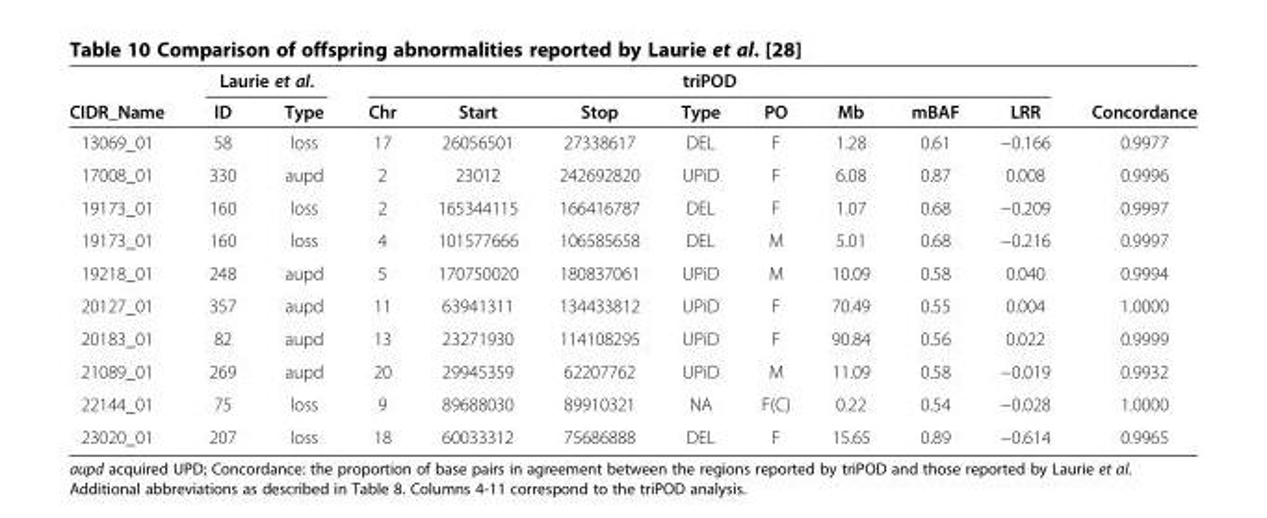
<table><thead><tr><td rowspan="2">CIDR_Name</td><td colspan="2">Laurie et al.</td><td colspan="8">triPOD</td><td rowspan="2">Concordance</td></tr><tr><td>ID</td><td>Type</td><td>Chr</td><td>Start</td><td>Stop</td><td>Type</td><td>PO</td><td>Mb</td><td>mBAF</td><td>LRR</td></tr></thead><tbody><tr><td>13069_01</td><td>58</td><td>loss</td><td>17</td><td>26056501</td><td>27338617</td><td>DEL</td><td>F</td><td>1.28</td><td>0.61</td><td>−0.166</td><td>0.9977</td></tr><tr><td>17008_01</td><td>330</td><td>aupd</td><td>2</td><td>23012</td><td>242692820</td><td>UPiD</td><td>F</td><td>6.08</td><td>0.87</td><td>0.008</td><td>0.9996</td></tr><tr><td>19173_01</td><td>160</td><td>loss</td><td>2</td><td>165344115</td><td>166416787</td><td>DEL</td><td>F</td><td>1.07</td><td>0.68</td><td>−0.209</td><td>0.9997</td></tr><tr><td>19173_01</td><td>160</td><td>loss</td><td>4</td><td>101577666</td><td>106585658</td><td>DEL</td><td>M</td><td>5.01</td><td>0.68</td><td>−0.216</td><td>0.9997</td></tr><tr><td>19218_01</td><td>248</td><td>aupd</td><td>5</td><td>170750020</td><td>180837061</td><td>UPiD</td><td>M</td><td>10.09</td><td>0.58</td><td>0.040</td><td>0.9994</td></tr><tr><td>20127_01</td><td>357</td><td>aupd</td><td>11</td><td>63941311</td><td>134433812</td><td>UPiD</td><td>F</td><td>70.49</td><td>0.55</td><td>0.004</td><td>1.0000</td></tr><tr><td>20183_01</td><td>82</td><td>aupd</td><td>13</td><td>23271930</td><td>114108295</td><td>UPiD</td><td>F</td><td>90.84</td><td>0.56</td><td>0.022</td><td>0.9999</td></tr><tr><td>21089_01</td><td>269</td><td>aupd</td><td>20</td><td>29945359</td><td>62207762</td><td>UPiD</td><td>M</td><td>11.09</td><td>0.58</td><td>−0.019</td><td>0.9932</td></tr><tr><td>22144_01</td><td>75</td><td>loss</td><td>9</td><td>89688030</td><td>89910321</td><td>NA</td><td>F(C)</td><td>0.22</td><td>0.54</td><td>−0.028</td><td>1.0000</td></tr><tr><td>23020_01</td><td>207</td><td>loss</td><td>18</td><td>60033312</td><td>75686888</td><td>DEL</td><td>F</td><td>15.65</td><td>0.89</td><td>−0.614</td><td>0.9965</td></tr></tbody></table>